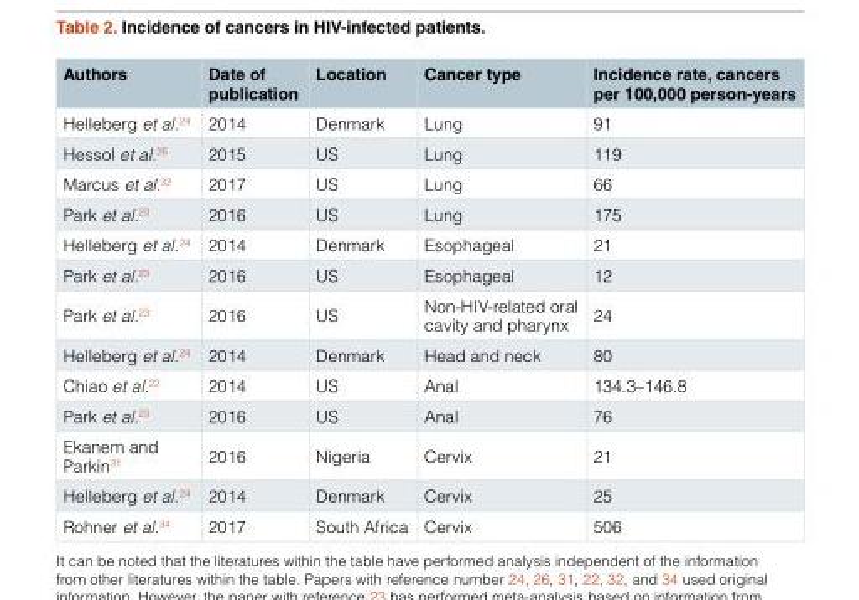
<table><thead><tr><td>Authors</td><td>Date of publication</td><td>Location</td><td>Cancer type</td><td>Incidence rate, cancers per 100,000 person-years</td></tr></thead><tbody><tr><td>Helleberg et al.<sup>24</sup></td><td>2014</td><td>Denmark</td><td>Lung</td><td>91</td></tr><tr><td>Hessol et al.<sup>26</sup></td><td>2015</td><td>US</td><td>Lung</td><td>119</td></tr><tr><td>Marcus et al.<sup>32</sup></td><td>2017</td><td>US</td><td>Lung</td><td>66</td></tr><tr><td>Park et al.<sup>23</sup></td><td>2016</td><td>US</td><td>Lung</td><td>175</td></tr><tr><td>Helleberg et al.<sup>24</sup></td><td>2014</td><td>Denmark</td><td>Esophageal</td><td>21</td></tr><tr><td>Park et al.<sup>23</sup></td><td>2016</td><td>US</td><td>Esophageal</td><td>12</td></tr><tr><td>Park et al.<sup>23</sup></td><td>2016</td><td>US</td><td>Non-HIV-related oral cavity and pharynx</td><td>24</td></tr><tr><td>Helleberg et al.<sup>24</sup></td><td>2014</td><td>Denmark</td><td>Head and neck</td><td>80</td></tr><tr><td>Chiao et al.<sup>22</sup></td><td>2014</td><td>US</td><td>Anal</td><td>134.3–146.8</td></tr><tr><td>Park et al.<sup>23</sup></td><td>2016</td><td>US</td><td>Anal</td><td>76</td></tr><tr><td>Ekanem and Parkin<sup>31</sup></td><td>2016</td><td>Nigeria</td><td>Cervix</td><td>21</td></tr><tr><td>Helleberg et al.<sup>24</sup></td><td>2014</td><td>Denmark</td><td>Cervix</td><td>25</td></tr><tr><td>Rohner et al.<sup>34</sup></td><td>2017</td><td>South Africa</td><td>Cervix</td><td>506</td></tr></tbody></table>